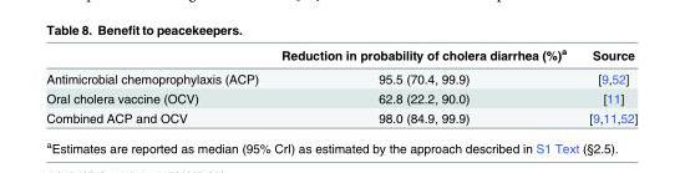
<table><thead><tr><td></td><td>Reduction in probability of cholera diarrhea (%)<sup>a</sup></td><td>Source</td></tr></thead><tbody><tr><td>Antimicrobial chemoprophylaxis (ACP)</td><td>95.5 (70.4, 99.9)</td><td>[9,52]</td></tr><tr><td>Oral cholera vaccine (OCV)</td><td>62.8 (22.2, 90.0)</td><td>[11]</td></tr><tr><td>Combined ACP and OCV</td><td>98.0 (84.9, 99.9)</td><td>[9,11,52]</td></tr></tbody></table>